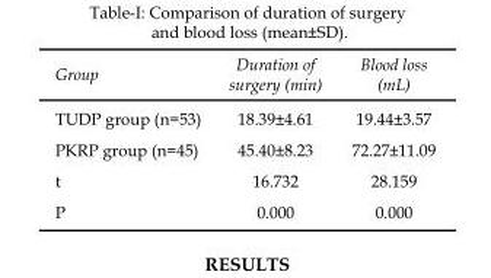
<table><thead><tr><td>Group</td><td>Duration of surgery (min)</td><td>Blood loss (mL)</td></tr></thead><tbody><tr><td>TUDP group (n=53)</td><td>18.39±4.61</td><td>19.44±3.57</td></tr><tr><td>PKRP group (n=45)</td><td>45.40±8.23</td><td>72.27±11.09</td></tr><tr><td>t</td><td>16.732</td><td>28.159</td></tr><tr><td>P</td><td>0.000</td><td>0.000</td></tr></tbody></table>